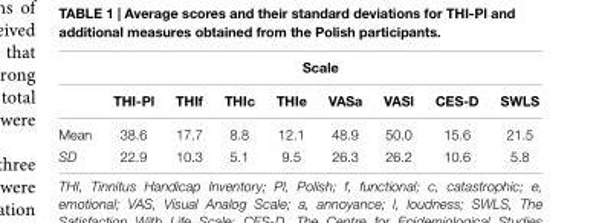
<table><thead><tr><td rowspan="2"></td><td colspan="8">Scale</td></tr><tr><td>THI-Pl</td><td>THIf</td><td>THIc</td><td>THIe</td><td>VASa</td><td>VASl</td><td>CES-D</td><td>SWLS</td></tr></thead><tbody><tr><td>Mean</td><td>38.6</td><td>17.7</td><td>8.8</td><td>12.1</td><td>48.9</td><td>50.0</td><td>15.6</td><td>21.5</td></tr><tr><td>SD</td><td>22.9</td><td>10.3</td><td>5.1</td><td>9.5</td><td>26.3</td><td>26.2</td><td>10.6</td><td>5.8</td></tr></tbody></table>